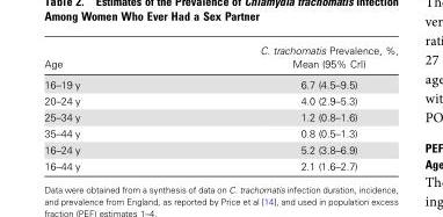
<table><thead><tr><td>Age</td><td>C. trachomatis Prevalence, %, Mean (95% CrI)</td></tr></thead><tbody><tr><td>16–19 y</td><td>6.7 (4.5–9.5)</td></tr><tr><td>20–24 y</td><td>4.0 (2.9–5.3)</td></tr><tr><td>25–34 y</td><td>1.2 (0.8–1.6)</td></tr><tr><td>35–44 y</td><td>0.8 (0.5–1.3)</td></tr><tr><td>16–24 y</td><td>5.2 (3.8–6.9)</td></tr><tr><td>16–44 y</td><td>2.1 (1.6–2.7)</td></tr></tbody></table>